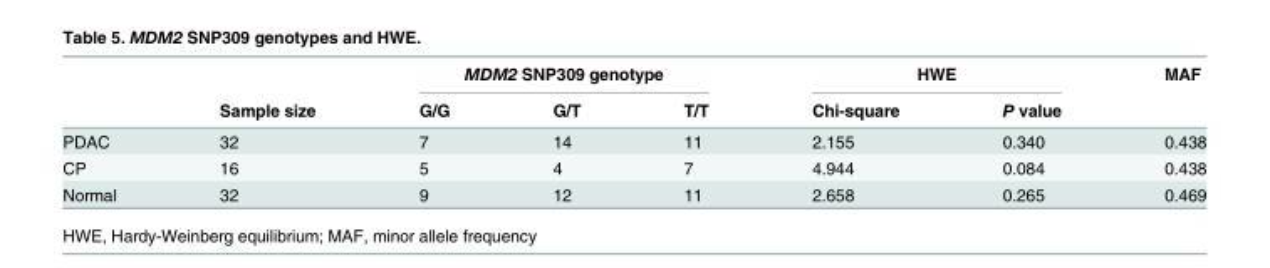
<table><thead><tr><td rowspan="2"></td><td rowspan="2">Sample size</td><td colspan="3">MDM2 SNP309 genotype</td><td colspan="2">HWE</td><td rowspan="2">MAF</td></tr><tr><td>G/G</td><td>G/T</td><td>T/T</td><td>Chi-square</td><td>P value</td></tr></thead><tbody><tr><td>PDAC</td><td>32</td><td>7</td><td>14</td><td>11</td><td>2.155</td><td>0.340</td><td>0.438</td></tr><tr><td>CP</td><td>16</td><td>5</td><td>4</td><td>7</td><td>4.944</td><td>0.084</td><td>0.438</td></tr><tr><td>Normal</td><td>32</td><td>9</td><td>12</td><td>11</td><td>2.658</td><td>0.265</td><td>0.469</td></tr></tbody></table>